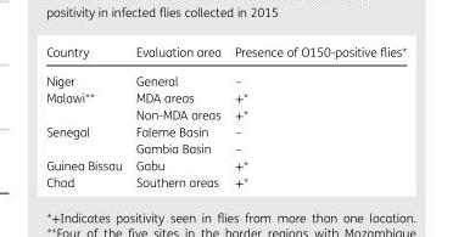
<table><thead><tr><td>Country</td><td>Evaluation area</td><td>Presence of O150-positive flies*</td></tr></thead><tbody><tr><td>Niger</td><td>General</td><td>–</td></tr><tr><td rowspan="2">Malawi**</td><td>MDA areas</td><td>+*</td></tr><tr><td>Non-MDA areas</td><td>+*</td></tr><tr><td rowspan="2">Senegal</td><td>Faleme Basin</td><td>–</td></tr><tr><td>Gambia Basin</td><td>–</td></tr><tr><td>Guinea Bissau</td><td>Gabu</td><td>+*</td></tr><tr><td>Chad</td><td>Southern areas</td><td>+*</td></tr></tbody></table>